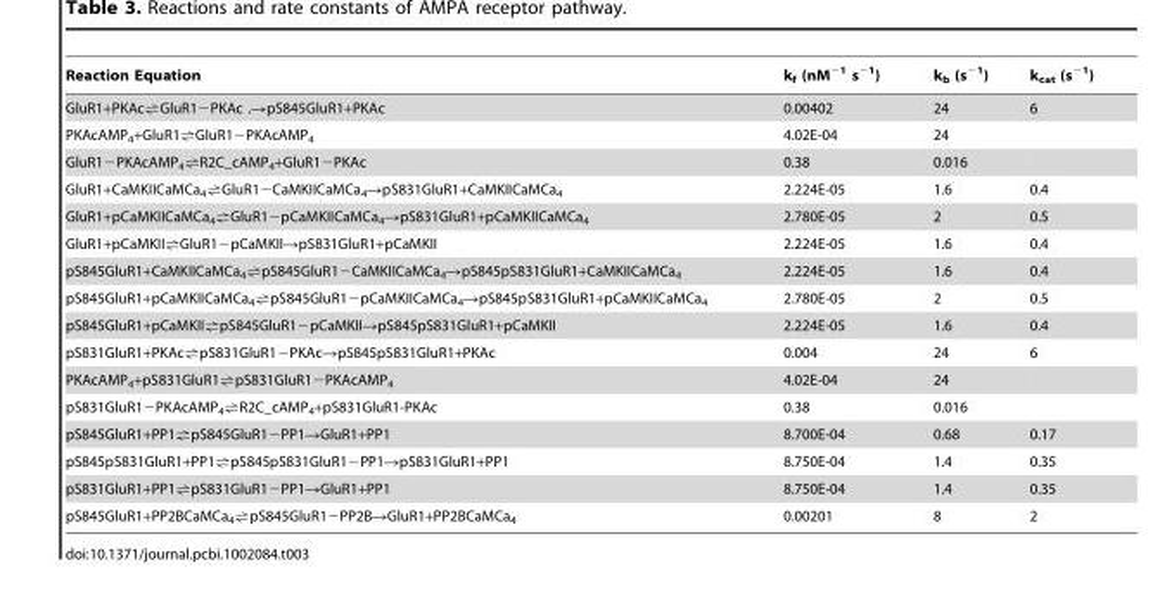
<table><thead><tr><td>Reaction Equation</td><td>k<sub>f</sub> (nM<sup>−1</sup> s<sup>−1</sup>)</td><td>k<sub>b</sub> (s<sup>−1</sup>)</td><td>k<sub>cat</sub> (s<sup>−1</sup>)</td></tr></thead><tbody><tr><td>GluR1+PKAc=GluR12PKAc .RpS845GluR1+PKAc</td><td>0.00402</td><td>24</td><td>6</td></tr><tr><td>PKAcAMP4+GluR1=GluR12PKAcAMP4</td><td>4.02E-04</td><td>24</td><td></td></tr><tr><td>GluR12PKAcAMP4=R2C_cAMP4+GluR12PKAc</td><td>0.38</td><td>0.016</td><td></td></tr><tr><td>GluR1+CaMKIICaMCa4=GluR12CaMKIICaMCa4RpS831GluR1+CaMKIICaMCa4</td><td>2.224E-05</td><td>1.6</td><td>0.4</td></tr><tr><td>GluR1+pCaMKIICaMCa4=GluR12pCaMKIICaMCa4RpS831GluR1+pCaMKIICaMCa4</td><td>2.780E-05</td><td>2</td><td>0.5</td></tr><tr><td>GluR1+pCaMKII=GluR12pCaMKIIRpS831GluR1+pCaMKII</td><td>2.224E-05</td><td>1.6</td><td>0.4</td></tr><tr><td>pS845GluR1+CaMKIICaMCa4=pS845GluR12CaMKIICaMCa4RpS845pS831GluR1+CaMKIICaMCa4</td><td>2.224E-05</td><td>1.6</td><td>0.4</td></tr><tr><td>pS845GluR1+pCaMKIICaMCa4=pS845GluR12pCaMKIICaMCa4RpS845pS831GluR1+pCaMKIICaMCa4</td><td>2.780E-05</td><td>2</td><td>0.5</td></tr><tr><td>pS845GluR1+pCaMKII=pS845GluR12pCaMKIIRpS845pS831GluR1+pCaMKII</td><td>2.224E-05</td><td>1.6</td><td>0.4</td></tr><tr><td>pS831GluR1+PKAc=pS831GluR12PKAcRpS845pS831GluR1+PKAc</td><td>0.004</td><td>24</td><td>6</td></tr><tr><td>PKAcAMP4+pS831GluR1=pS831GluR12PKAcAMP4</td><td>4.02E-04</td><td>24</td><td></td></tr><tr><td>pS831GluR12PKAcAMP4=R2C_cAMP4+pS831GluR1-PKAc</td><td>0.38</td><td>0.016</td><td></td></tr><tr><td>pS845GluR1+PP1=pS845GluR12PP1RGluR1+PP1</td><td>8.700E-04</td><td>0.68</td><td>0.17</td></tr><tr><td>pS845pS831GluR1+PP1=pS845pS831GluR12PP1RpS831GluR1+PP1</td><td>8.750E-04</td><td>1.4</td><td>0.35</td></tr><tr><td>pS831GluR1+PP1=pS831GluR12PP1RGluR1+PP1</td><td>8.750E-04</td><td>1.4</td><td>0.35</td></tr><tr><td>pS845GluR1+PP2BCaMCa4=pS845GluR12PP2BRGluR1+PP2BCaMCa4</td><td>0.00201</td><td>8</td><td>2</td></tr></tbody></table>